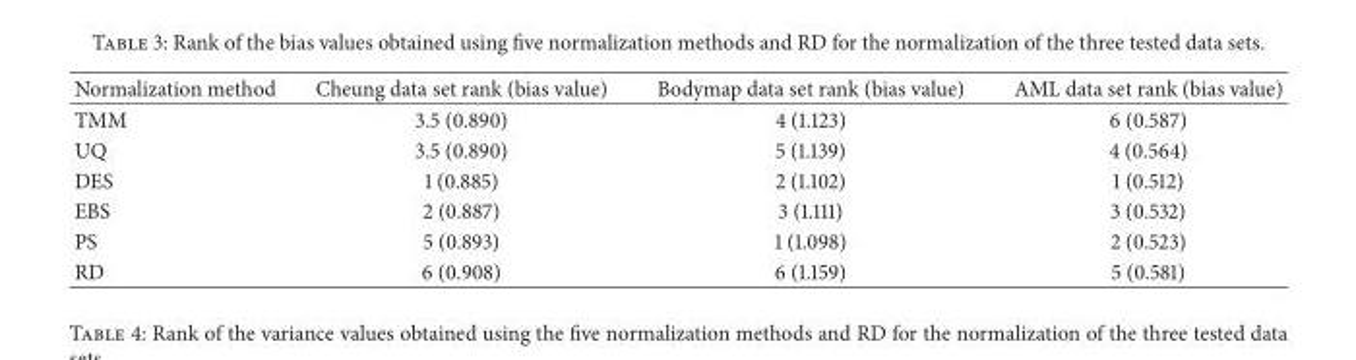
<table><thead><tr><td>Normalization method</td><td>Cheung data set rank (bias value)</td><td>Bodymap data set rank (bias value)</td><td>AML data set rank (bias value)</td></tr></thead><tbody><tr><td>TMM</td><td>3.5 (0.890)</td><td>4 (1.123)</td><td>6 (0.587)</td></tr><tr><td>UQ</td><td>3.5 (0.890)</td><td>5 (1.139)</td><td>4 (0.564)</td></tr><tr><td>DES</td><td>1 (0.885)</td><td>2 (1.102)</td><td>1 (0.512)</td></tr><tr><td>EBS</td><td>2 (0.887)</td><td>3 (1.111)</td><td>3 (0.532)</td></tr><tr><td>PS</td><td>5 (0.893)</td><td>1 (1.098)</td><td>2 (0.523)</td></tr><tr><td>RD</td><td>6 (0.908)</td><td>6 (1.159)</td><td>5 (0.581)</td></tr></tbody></table>